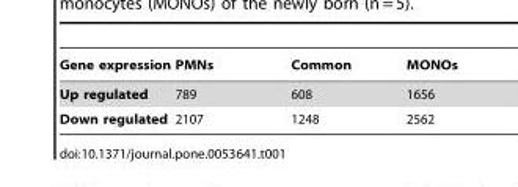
<table><thead><tr><td>Gene expression</td><td>PMNs</td><td>Common</td><td>MONOs</td></tr></thead><tbody><tr><td>Up regulated</td><td>789</td><td>608</td><td>1656</td></tr><tr><td>Down regulated</td><td>2107</td><td>1248</td><td>2562</td></tr></tbody></table>